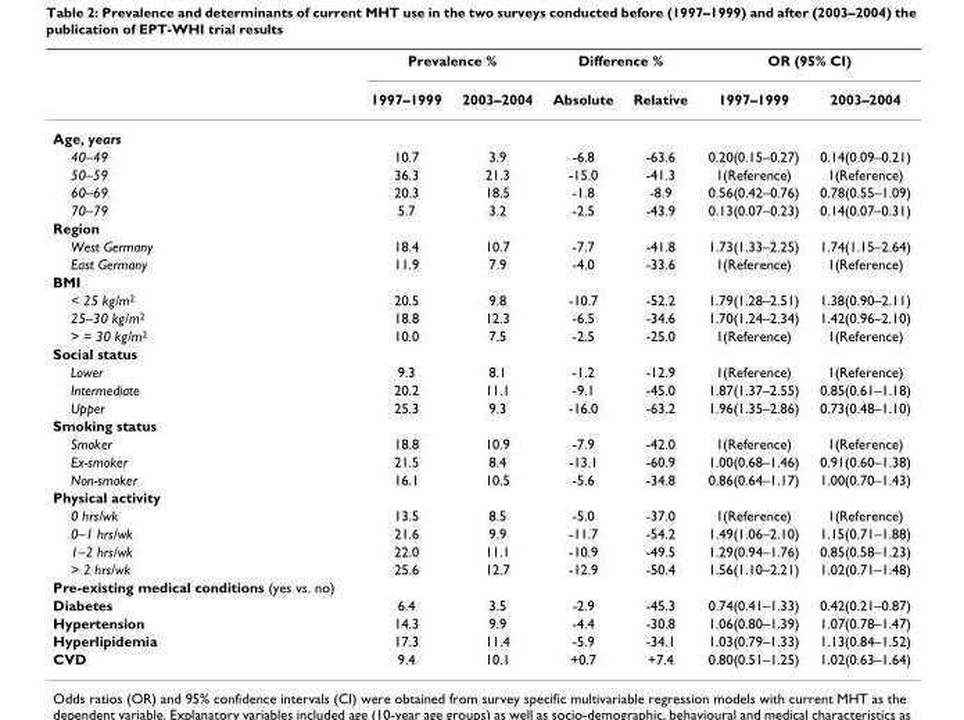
<table><thead><tr><td rowspan="2"></td><td colspan="2">Prevalence %</td><td colspan="2">Difference %</td><td colspan="2">OR (95% CI)</td></tr><tr><td>1997–1999</td><td>2003–2004</td><td>Absolute</td><td>Relative</td><td>1997–1999</td><td>2003–2004</td></tr></thead><tbody><tr><td colspan="7">Age, years</td></tr><tr><td>40–49</td><td>10.7</td><td>3.9</td><td>-6.8</td><td>-63.6</td><td>0.20(0.15–0.27)</td><td>0.14(0.09–0.21)</td></tr><tr><td>50–59</td><td>36.3</td><td>21.3</td><td>-15.0</td><td>-41.3</td><td>1(Reference)</td><td>1(Reference)</td></tr><tr><td>60–69</td><td>20.3</td><td>18.5</td><td>-1.8</td><td>-8.9</td><td>0.56(0.42–0.76)</td><td>0.78(0.55–1.09)</td></tr><tr><td>70–79</td><td>5.7</td><td>3.2</td><td>-2.5</td><td>-43.9</td><td>0.13(0.07–0.23)</td><td>0.14(0.07–0.31)</td></tr><tr><td colspan="7">Region</td></tr><tr><td>West Germany</td><td>18.4</td><td>10.7</td><td>-7.7</td><td>-41.8</td><td>1.73(1.33–2.25)</td><td>1.74(1.15–2.64)</td></tr><tr><td>East Germany</td><td>11.9</td><td>7.9</td><td>-4.0</td><td>-33.6</td><td>1(Reference)</td><td>1(Reference)</td></tr><tr><td colspan="7">BMI</td></tr><tr><td>&lt; 25 kg/m<sup>2</sup></td><td>20.5</td><td>9.8</td><td>-10.7</td><td>-52.2</td><td>1.79(1.28–2.51)</td><td>1.38(0.90–2.11)</td></tr><tr><td>25–30 kg/m<sup>2</sup></td><td>18.8</td><td>12.3</td><td>-6.5</td><td>-34.6</td><td>1.70(1.24–2.34)</td><td>1.42(0.96–2.10)</td></tr><tr><td>&gt; = 30 kg/m<sup>2</sup></td><td>10.0</td><td>7.5</td><td>-2.5</td><td>-25.0</td><td>1(Reference)</td><td>1(Reference)</td></tr><tr><td colspan="7">Social status</td></tr><tr><td>Lower</td><td>9.3</td><td>8.1</td><td>-1.2</td><td>-12.9</td><td>1(Reference)</td><td>1(Reference)</td></tr><tr><td>Intermediate</td><td>20.2</td><td>11.1</td><td>-9.1</td><td>-45.0</td><td>1.87(1.37–2.55)</td><td>0.85(0.61–1.18)</td></tr><tr><td>Upper</td><td>25.3</td><td>9.3</td><td>-16.0</td><td>-63.2</td><td>1.96(1.35–2.86)</td><td>0.73(0.48–1.10)</td></tr><tr><td colspan="7">Smoking status</td></tr><tr><td>Smoker</td><td>18.8</td><td>10.9</td><td>-7.9</td><td>-42.0</td><td>1(Reference)</td><td>1(Reference)</td></tr><tr><td>Ex-smoker</td><td>21.5</td><td>8.4</td><td>-13.1</td><td>-60.9</td><td>1.00(0.68–1.46)</td><td>0.91(0.60–1.38)</td></tr><tr><td>Non-smoker</td><td>16.1</td><td>10.5</td><td>-5.6</td><td>-34.8</td><td>0.86(0.64–1.17)</td><td>1.00(0.70–1.43)</td></tr><tr><td colspan="7">Physical activity</td></tr><tr><td>0 hrs/wk</td><td>13.5</td><td>8.5</td><td>-5.0</td><td>-37.0</td><td>1(Reference)</td><td>1(Reference)</td></tr><tr><td>0–1 hrs/wk</td><td>21.6</td><td>9.9</td><td>-11.7</td><td>-54.2</td><td>1.49(1.06–2.10)</td><td>1.15(0.71–1.88)</td></tr><tr><td>1–2 hrs/wk</td><td>22.0</td><td>11.1</td><td>-10.9</td><td>-49.5</td><td>1.29(0.94–1.76)</td><td>0.85(0.58–1.23)</td></tr><tr><td>&gt; 2 hrs/wk</td><td>25.6</td><td>12.7</td><td>-12.9</td><td>-50.4</td><td>1.56(1.10–2.21)</td><td>1.02(0.71–1.48)</td></tr><tr><td colspan="7">Pre-existing medical conditions (yes vs. no)</td></tr><tr><td>Diabetes</td><td>6.4</td><td>3.5</td><td>-2.9</td><td>-45.3</td><td>0.74(0.41–1.33)</td><td>0.42(0.21–0.87)</td></tr><tr><td>Hypertension</td><td>14.3</td><td>9.9</td><td>-4.4</td><td>-30.8</td><td>1.06(0.80–1.39)</td><td>1.07(0.78–1.47)</td></tr><tr><td>Hyperlipidemia</td><td>17.3</td><td>11.4</td><td>-5.9</td><td>-34.1</td><td>1.03(0.79–1.33)</td><td>1.13(0.84–1.52)</td></tr><tr><td>CVD</td><td>9.4</td><td>10.1</td><td>+0.7</td><td>+7.4</td><td>0.80(0.51–1.25)</td><td>1.02(0.63–1.64)</td></tr></tbody></table>